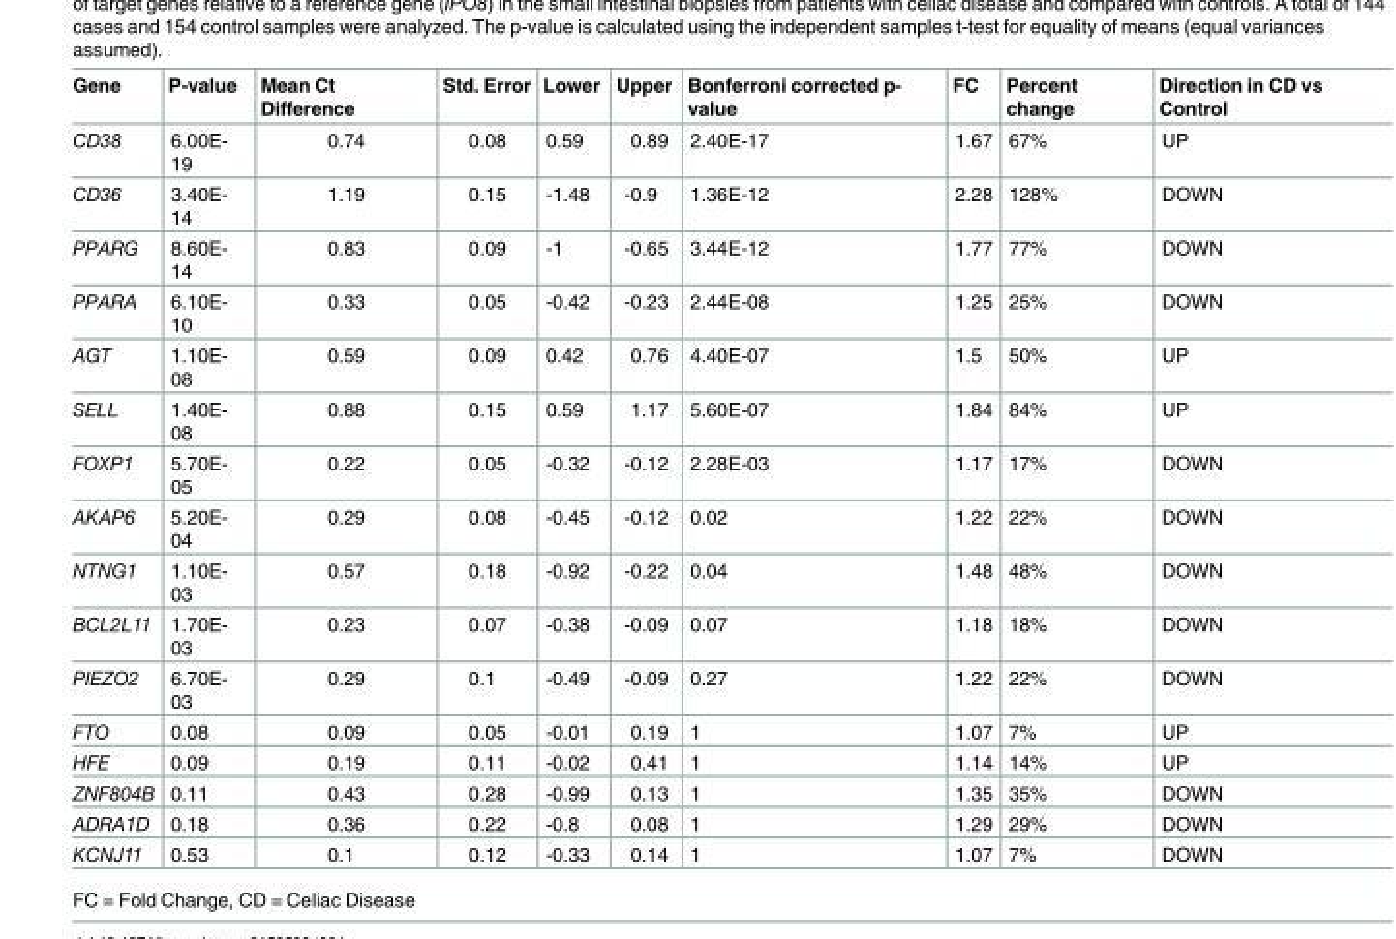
<table><thead><tr><td>Gene</td><td>P-value</td><td>Mean Ct Difference</td><td>Std. Error</td><td>Lower</td><td>Upper</td><td>Bonferroni corrected p- value</td><td>FC</td><td>Percent change</td><td>Direction in CD vs Control</td></tr></thead><tbody><tr><td>CD38</td><td>6.00E- 19</td><td>0.74</td><td>0.08</td><td>0.59</td><td>0.89</td><td>2.40E-17</td><td>1.67</td><td>67%</td><td>UP</td></tr><tr><td>CD36</td><td>3.40E- 14</td><td>1.19</td><td>0.15</td><td>-1.48</td><td>-0.9</td><td>1.36E-12</td><td>2.28</td><td>128%</td><td>DOWN</td></tr><tr><td>PPARG</td><td>8.60E- 14</td><td>0.83</td><td>0.09</td><td>-1</td><td>-0.65</td><td>3.44E-12</td><td>1.77</td><td>77%</td><td>DOWN</td></tr><tr><td>PPARA</td><td>6.10E- 10</td><td>0.33</td><td>0.05</td><td>-0.42</td><td>-0.23</td><td>2.44E-08</td><td>1.25</td><td>25%</td><td>DOWN</td></tr><tr><td>AGT</td><td>1.10E- 08</td><td>0.59</td><td>0.09</td><td>0.42</td><td>0.76</td><td>4.40E-07</td><td>1.5</td><td>50%</td><td>UP</td></tr><tr><td>SELL</td><td>1.40E- 08</td><td>0.88</td><td>0.15</td><td>0.59</td><td>1.17</td><td>5.60E-07</td><td>1.84</td><td>84%</td><td>UP</td></tr><tr><td>FOXP1</td><td>5.70E- 05</td><td>0.22</td><td>0.05</td><td>-0.32</td><td>-0.12</td><td>2.28E-03</td><td>1.17</td><td>17%</td><td>DOWN</td></tr><tr><td>AKAP6</td><td>5.20E- 04</td><td>0.29</td><td>0.08</td><td>-0.45</td><td>-0.12</td><td>0.02</td><td>1.22</td><td>22%</td><td>DOWN</td></tr><tr><td>NTNG1</td><td>1.10E- 03</td><td>0.57</td><td>0.18</td><td>-0.92</td><td>-0.22</td><td>0.04</td><td>1.48</td><td>48%</td><td>DOWN</td></tr><tr><td>BCL2L11</td><td>1.70E- 03</td><td>0.23</td><td>0.07</td><td>-0.38</td><td>-0.09</td><td>0.07</td><td>1.18</td><td>18%</td><td>DOWN</td></tr><tr><td>PIEZO2</td><td>6.70E- 03</td><td>0.29</td><td>0.1</td><td>-0.49</td><td>-0.09</td><td>0.27</td><td>1.22</td><td>22%</td><td>DOWN</td></tr><tr><td>FTO</td><td>0.08</td><td>0.09</td><td>0.05</td><td>-0.01</td><td>0.19</td><td>1</td><td>1.07</td><td>7%</td><td>UP</td></tr><tr><td>HFE</td><td>0.09</td><td>0.19</td><td>0.11</td><td>-0.02</td><td>0.41</td><td>1</td><td>1.14</td><td>14%</td><td>UP</td></tr><tr><td>ZNF804B</td><td>0.11</td><td>0.43</td><td>0.28</td><td>-0.99</td><td>0.13</td><td>1</td><td>1.35</td><td>35%</td><td>DOWN</td></tr><tr><td>ADRA1D</td><td>0.18</td><td>0.36</td><td>0.22</td><td>-0.8</td><td>0.08</td><td>1</td><td>1.29</td><td>29%</td><td>DOWN</td></tr><tr><td>KCNJ11</td><td>0.53</td><td>0.1</td><td>0.12</td><td>-0.33</td><td>0.14</td><td>1</td><td>1.07</td><td>7%</td><td>DOWN</td></tr></tbody></table>